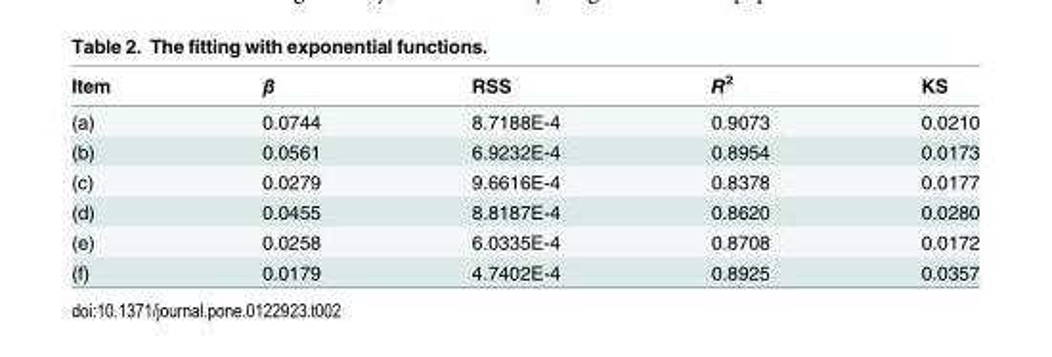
<table><thead><tr><td>Item</td><td>β</td><td>RSS</td><td>R<sup>2</sup></td><td>KS</td></tr></thead><tbody><tr><td>(a)</td><td>0.0744</td><td>8.7188E-4</td><td>0.9073</td><td>0.0210</td></tr><tr><td>(b)</td><td>0.0561</td><td>6.9232E-4</td><td>0.8954</td><td>0.0173</td></tr><tr><td>(c)</td><td>0.0279</td><td>9.6616E-4</td><td>0.8378</td><td>0.0177</td></tr><tr><td>(d)</td><td>0.0455</td><td>8.8187E-4</td><td>0.8620</td><td>0.0280</td></tr><tr><td>(e)</td><td>0.0258</td><td>6.0335E-4</td><td>0.8708</td><td>0.0172</td></tr><tr><td>(f)</td><td>0.0179</td><td>4.7402E-4</td><td>0.8925</td><td>0.0357</td></tr></tbody></table>